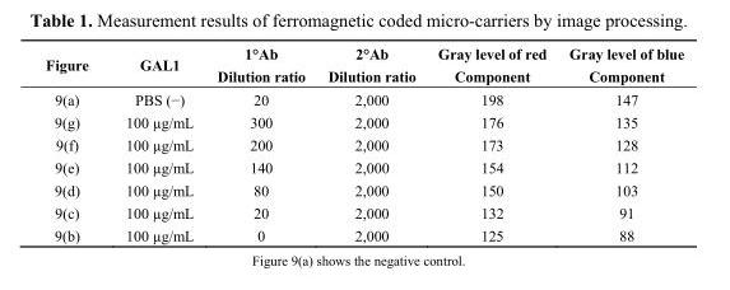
<table><thead><tr><td>Figure</td><td>GAL1</td><td>1°Ab Dilution ratio</td><td>2°Ab Dilution ratio</td><td>Gray level of red Component</td><td>Gray level of blue Component</td></tr></thead><tbody><tr><td>9(a)</td><td>PBS (−)</td><td>20</td><td>2,000</td><td>198</td><td>147</td></tr><tr><td>9(g)</td><td>100 µg/mL</td><td>300</td><td>2,000</td><td>176</td><td>135</td></tr><tr><td>9(f)</td><td>100 µg/mL</td><td>200</td><td>2,000</td><td>173</td><td>128</td></tr><tr><td>9(e)</td><td>100 µg/mL</td><td>140</td><td>2,000</td><td>154</td><td>112</td></tr><tr><td>9(d)</td><td>100 µg/mL</td><td>80</td><td>2,000</td><td>150</td><td>103</td></tr><tr><td>9(c)</td><td>100 µg/mL</td><td>20</td><td>2,000</td><td>132</td><td>91</td></tr><tr><td>9(b)</td><td>100 µg/mL</td><td>0</td><td>2,000</td><td>125</td><td>88</td></tr></tbody></table>